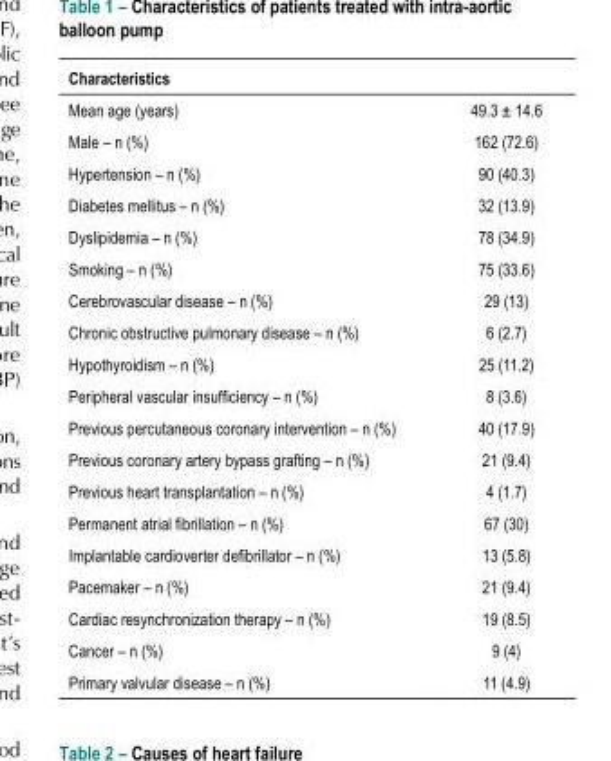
<table><thead><tr><td>Characteristics</td><td></td></tr></thead><tbody><tr><td>Mean age (years)</td><td>49.3 ± 14.6</td></tr><tr><td>Male – n (%)</td><td>162 (72.6)</td></tr><tr><td>Hypertension – n (%)</td><td>90 (40.3)</td></tr><tr><td>Diabetes mellitus – n (%)</td><td>32 (13.9)</td></tr><tr><td>Dyslipidemia – n (%)</td><td>78 (34.9)</td></tr><tr><td>Smoking – n (%)</td><td>75 (33.6)</td></tr><tr><td>Cerebrovascular disease – n (%)</td><td>29 (13)</td></tr><tr><td>Chronic obstructive pulmonary disease – n (%)</td><td>6 (2.7)</td></tr><tr><td>Hypothyroidism – n (%)</td><td>25 (11.2)</td></tr><tr><td>Peripheral vascular insufficiency – n (%)</td><td>8 (3.6)</td></tr><tr><td>Previous percutaneous coronary intervention – n (%)</td><td>40 (17.9)</td></tr><tr><td>Previous coronary artery bypass grafting – n (%)</td><td>21 (9.4)</td></tr><tr><td>Previous heart transplantation – n (%)</td><td>4 (1.7)</td></tr><tr><td>Permanent atrial fibrillation – n (%)</td><td>67 (30)</td></tr><tr><td>Implantable cardioverter defibrillator – n (%)</td><td>13 (5.8)</td></tr><tr><td>Pacemaker – n (%)</td><td>21 (9.4)</td></tr><tr><td>Cardiac resynchronization therapy – n (%)</td><td>19 (8.5)</td></tr><tr><td>Cancer – n (%)</td><td>9 (4)</td></tr><tr><td>Primary valvular disease – n (%)</td><td>11 (4.9)</td></tr></tbody></table>